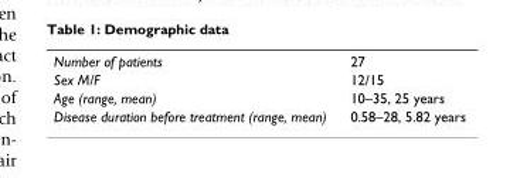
<table><tbody><tr><td>Number of patients</td><td>27</td></tr><tr><td>Sex M/F</td><td>12/15</td></tr><tr><td>Age (range, mean)</td><td>10–35, 25 years</td></tr><tr><td>Disease duration before treatment (range, mean)</td><td>0.58–28, 5.82 years</td></tr></tbody></table>